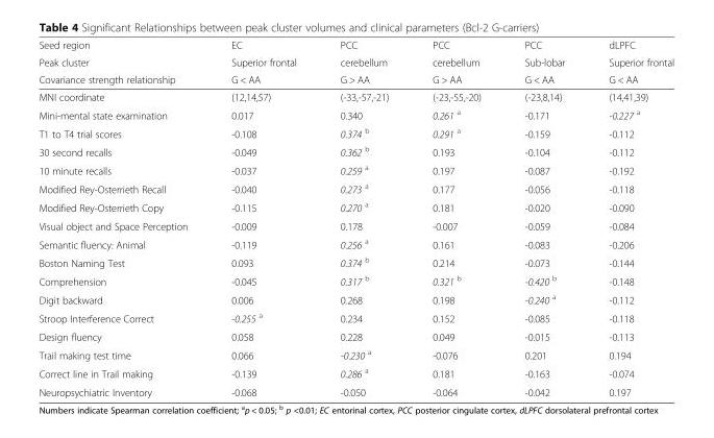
<table><thead><tr><td rowspan="3">Seed region Peak cluster Covariance strength relationship</td><td rowspan="3">EC Superior frontal G &lt; AA</td><td rowspan="3">PCC cerebellum G &gt; AA</td><td rowspan="3">PCC cerebellum G &gt; AA</td><td rowspan="3">PCC Sub-lobar G &lt; AA</td><td rowspan="3">dLPFC Superior frontal G &lt; AA</td></tr><tr></tr><tr></tr></thead><tbody><tr><td>MNI coordinate</td><td>(12,14,57)</td><td>(-33,-57,-21)</td><td>(-23,-55,-20)</td><td>(-23,8,14)</td><td>(14,41,39)</td></tr><tr><td>Mini-mental state examination</td><td>0.017</td><td>0.340</td><td>0.261 <sup>a</sup></td><td>-0.171</td><td>-0.227 <sup>a</sup></td></tr><tr><td>T1 to T4 trial scores</td><td>-0.108</td><td>0.374 <sup>b</sup></td><td>0.291 <sup>a</sup></td><td>-0.159</td><td>-0.112</td></tr><tr><td>30 second recalls</td><td>-0.049</td><td>0.362 <sup>b</sup></td><td>0.193</td><td>-0.104</td><td>-0.112</td></tr><tr><td>10 minute recalls</td><td>-0.037</td><td>0.259 <sup>a</sup></td><td>0.197</td><td>-0.087</td><td>-0.192</td></tr><tr><td>Modified Rey-Osterrieth Recall</td><td>-0.040</td><td>0.273 <sup>a</sup></td><td>0.177</td><td>-0.056</td><td>-0.118</td></tr><tr><td>Modified Rey-Osterrieth Copy</td><td>-0.115</td><td>0.270 <sup>a</sup></td><td>0.181</td><td>-0.020</td><td>-0.090</td></tr><tr><td>Visual object and Space Perception</td><td>-0.009</td><td>0.178</td><td>-0.007</td><td>-0.059</td><td>-0.084</td></tr><tr><td>Semantic fluency: Animal</td><td>-0.119</td><td>0.256 <sup>a</sup></td><td>0.161</td><td>-0.083</td><td>-0.206</td></tr><tr><td>Boston Naming Test</td><td>0.093</td><td>0.374 <sup>b</sup></td><td>0.214</td><td>-0.073</td><td>-0.144</td></tr><tr><td>Comprehension</td><td>-0.045</td><td>0.317 <sup>b</sup></td><td>0.321 <sup>b</sup></td><td>-0.420 <sup>b</sup></td><td>-0.148</td></tr><tr><td>Digit backward</td><td>0.006</td><td>0.268</td><td>0.198</td><td>-0.240 <sup>a</sup></td><td>-0.112</td></tr><tr><td>Stroop Interference Correct</td><td>-0.255 <sup>a</sup></td><td>0.234</td><td>0.152</td><td>-0.085</td><td>-0.118</td></tr><tr><td>Design fluency</td><td>0.058</td><td>0.228</td><td>0.049</td><td>-0.015</td><td>-0.113</td></tr><tr><td>Trail making test time</td><td>0.066</td><td>-0.230 <sup>a</sup></td><td>-0.076</td><td>0.201</td><td>0.194</td></tr><tr><td>Correct line in Trail making</td><td>-0.139</td><td>0.286 <sup>a</sup></td><td>0.181</td><td>-0.163</td><td>-0.074</td></tr><tr><td>Neuropsychiatric Inventory</td><td>-0.068</td><td>-0.050</td><td>-0.064</td><td>-0.042</td><td>0.197</td></tr></tbody></table>